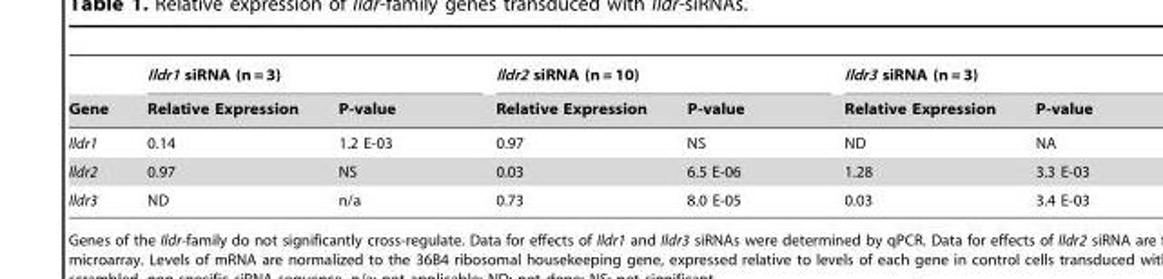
<table><thead><tr><td rowspan="2">Gene</td><td colspan="2">Ildr1 siRNA (n = 3)</td><td colspan="2">Ildr2 siRNA (n = 10)</td><td colspan="2">Ildr3 siRNA (n = 3)</td></tr><tr><td>Relative Expression</td><td>P-value</td><td>Relative Expression</td><td>P-value</td><td>Relative Expression</td><td>P-value</td></tr></thead><tbody><tr><td>Ildr1</td><td>0.14</td><td>1.2 E-03</td><td>0.97</td><td>NS</td><td>ND</td><td>NA</td></tr><tr><td>Ildr2</td><td>0.97</td><td>NS</td><td>0.03</td><td>6.5 E-06</td><td>1.28</td><td>3.3 E-03</td></tr><tr><td>Ildr3</td><td>ND</td><td>n/a</td><td>0.73</td><td>8.0 E-05</td><td>0.03</td><td>3.4 E-03</td></tr></tbody></table>